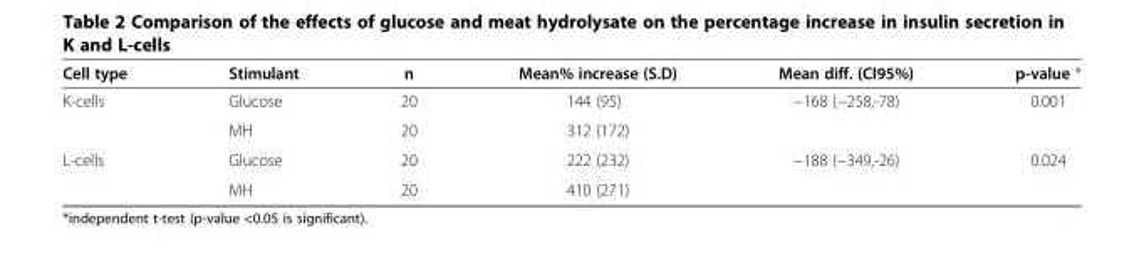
<table><thead><tr><td>Cell type</td><td>Stimulant</td><td>n</td><td>Mean% increase (S.D)</td><td>Mean diff. (CI95%)</td><td>p-value *</td></tr></thead><tbody><tr><td rowspan="2">K-cells</td><td>Glucose</td><td>20</td><td>144 (95)</td><td>−168 (−258,-78)</td><td>0.001</td></tr><tr><td>MH</td><td>20</td><td>312 (172)</td><td></td><td></td></tr><tr><td rowspan="2">L-cells</td><td>Glucose</td><td>20</td><td>222 (232)</td><td>−188 (−349,-26)</td><td>0.024</td></tr><tr><td>MH</td><td>20</td><td>410 (271)</td><td></td><td></td></tr></tbody></table>